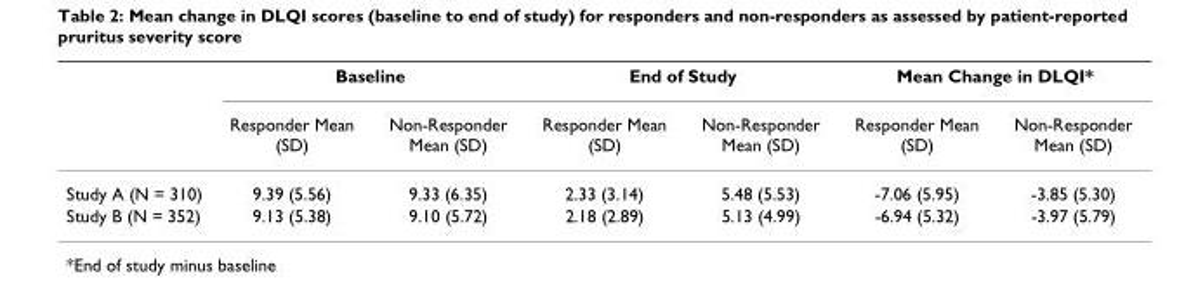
<table><thead><tr><td rowspan="2"></td><td colspan="2">Baseline</td><td colspan="2">End of Study</td><td colspan="2">Mean Change in DLQI*</td></tr><tr><td>Responder Mean (SD)</td><td>Non-Responder Mean (SD)</td><td>Responder Mean (SD)</td><td>Non-Responder Mean (SD)</td><td>Responder Mean (SD)</td><td>Non-Responder Mean (SD)</td></tr></thead><tbody><tr><td>Study A (N = 310)</td><td>9.39 (5.56)</td><td>9.33 (6.35)</td><td>2.33 (3.14)</td><td>5.48 (5.53)</td><td>-7.06 (5.95)</td><td>-3.85 (5.30)</td></tr><tr><td>Study B (N = 352)</td><td>9.13 (5.38)</td><td>9.10 (5.72)</td><td>2.18 (2.89)</td><td>5.13 (4.99)</td><td>-6.94 (5.32)</td><td>-3.97 (5.79)</td></tr></tbody></table>